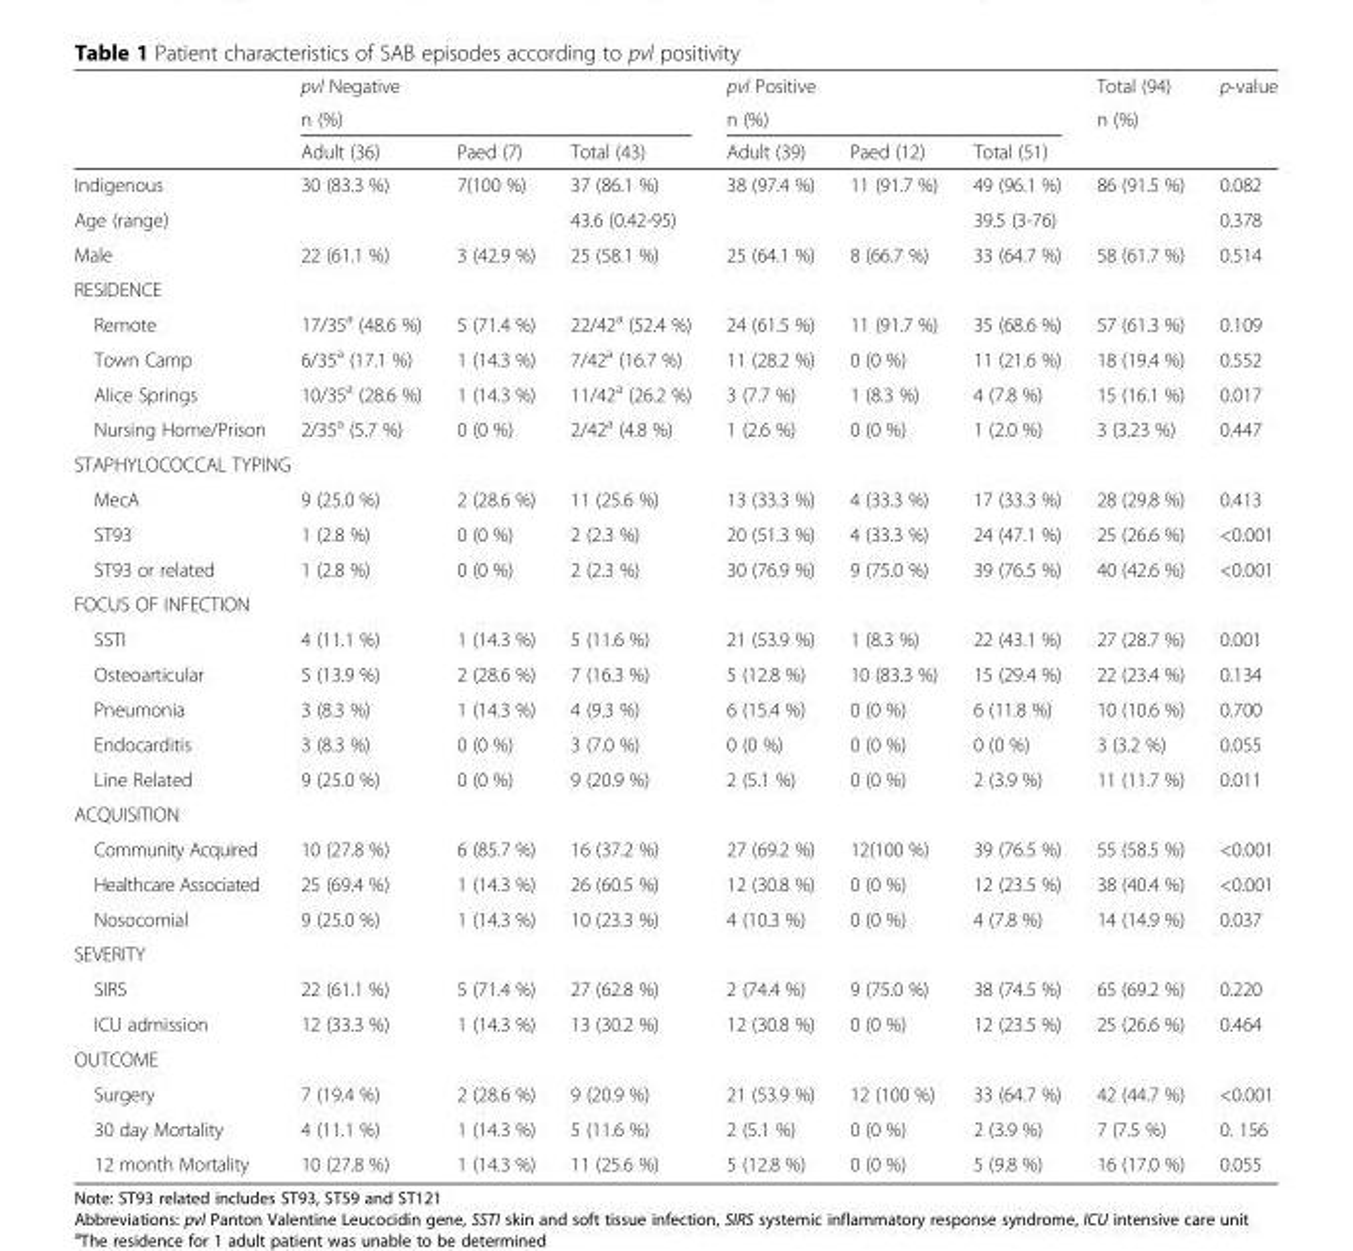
<table><thead><tr><td rowspan="3"></td><td rowspan="2" colspan="3">pvl Negative n (%)</td><td rowspan="2" colspan="3">pvl Positive n (%)</td><td rowspan="3">Total (94) n (%)</td><td rowspan="3">p-value</td></tr><tr></tr><tr><td>Adult (36)</td><td>Paed (7)</td><td>Total (43)</td><td>Adult (39)</td><td>Paed (12)</td><td>Total (51)</td></tr></thead><tbody><tr><td>Indigenous</td><td>30 (83.3 %)</td><td>7(100 %)</td><td>37 (86.1 %)</td><td>38 (97.4 %)</td><td>11 (91.7 %)</td><td>49 (96.1 %)</td><td>86 (91.5 %)</td><td>0.082</td></tr><tr><td>Age (range)</td><td></td><td></td><td>43.6 (0.42-95)</td><td></td><td></td><td>39.5 (3-76)</td><td></td><td>0.378</td></tr><tr><td>Male</td><td>22 (61.1 %)</td><td>3 (42.9 %)</td><td>25 (58.1 %)</td><td>25 (64.1 %)</td><td>8 (66.7 %)</td><td>33 (64.7 %)</td><td>58 (61.7 %)</td><td>0.514</td></tr><tr><td colspan="9">RESIDENCE</td></tr><tr><td>Remote</td><td>17/35<sup>a</sup> (48.6 %)</td><td>5 (71.4 %)</td><td>22/42<sup>a</sup> (52.4 %)</td><td>24 (61.5 %)</td><td>11 (91.7 %)</td><td>35 (68.6 %)</td><td>57 (61.3 %)</td><td>0.109</td></tr><tr><td>Town Camp</td><td>6/35<sup>a</sup> (17.1 %)</td><td>1 (14.3 %)</td><td>7/42<sup>a</sup> (16.7 %)</td><td>11 (28.2 %)</td><td>0 (0 %)</td><td>11 (21.6 %)</td><td>18 (19.4 %)</td><td>0.552</td></tr><tr><td>Alice Springs</td><td>10/35<sup>a</sup> (28.6 %)</td><td>1 (14.3 %)</td><td>11/42<sup>a</sup> (26.2 %)</td><td>3 (7.7 %)</td><td>1 (8.3 %)</td><td>4 (7.8 %)</td><td>15 (16.1 %)</td><td>0.017</td></tr><tr><td>Nursing Home/Prison</td><td>2/35<sup>a</sup> (5.7 %)</td><td>0 (0 %)</td><td>2/42<sup>a</sup> (4.8 %)</td><td>1 (2.6 %)</td><td>0 (0 %)</td><td>1 (2.0 %)</td><td>3 (3.23 %)</td><td>0.447</td></tr><tr><td colspan="9">STAPHYLOCOCCAL TYPING</td></tr><tr><td>MecA</td><td>9 (25.0 %)</td><td>2 (28.6 %)</td><td>11 (25.6 %)</td><td>13 (33.3 %)</td><td>4 (33.3 %)</td><td>17 (33.3 %)</td><td>28 (29.8 %)</td><td>0.413</td></tr><tr><td>ST93</td><td>1 (2.8 %)</td><td>0 (0 %)</td><td>2 (2.3 %)</td><td>20 (51.3 %)</td><td>4 (33.3 %)</td><td>24 (47.1 %)</td><td>25 (26.6 %)</td><td>&lt;0.001</td></tr><tr><td>ST93 or related</td><td>1 (2.8 %)</td><td>0 (0 %)</td><td>2 (2.3 %)</td><td>30 (76.9 %)</td><td>9 (75.0 %)</td><td>39 (76.5 %)</td><td>40 (42.6 %)</td><td>&lt;0.001</td></tr><tr><td colspan="9">FOCUS OF INFECTION</td></tr><tr><td>SSTI</td><td>4 (11.1 %)</td><td>1 (14.3 %)</td><td>5 (11.6 %)</td><td>21 (53.9 %)</td><td>1 (8.3 %)</td><td>22 (43.1 %)</td><td>27 (28.7 %)</td><td>0.001</td></tr><tr><td>Osteoarticular</td><td>5 (13.9 %)</td><td>2 (28.6 %)</td><td>7 (16.3 %)</td><td>5 (12.8 %)</td><td>10 (83.3 %)</td><td>15 (29.4 %)</td><td>22 (23.4 %)</td><td>0.134</td></tr><tr><td>Pneumonia</td><td>3 (8.3 %)</td><td>1 (14.3 %)</td><td>4 (9.3 %)</td><td>6 (15.4 %)</td><td>0 (0 %)</td><td>6 (11.8 %)</td><td>10 (10.6 %)</td><td>0.700</td></tr><tr><td>Endocarditis</td><td>3 (8.3 %)</td><td>0 (0 %)</td><td>3 (7.0 %)</td><td>0 (0 %)</td><td>0 (0 %)</td><td>0 (0 %)</td><td>3 (3.2 %)</td><td>0.055</td></tr><tr><td>Line Related</td><td>9 (25.0 %)</td><td>0 (0 %)</td><td>9 (20.9 %)</td><td>2 (5.1 %)</td><td>0 (0 %)</td><td>2 (3.9 %)</td><td>11 (11.7 %)</td><td>0.011</td></tr><tr><td colspan="9">ACQUISITION</td></tr><tr><td>Community Acquired</td><td>10 (27.8 %)</td><td>6 (85.7 %)</td><td>16 (37.2 %)</td><td>27 (69.2 %)</td><td>12(100 %)</td><td>39 (76.5 %)</td><td>55 (58.5 %)</td><td>&lt;0.001</td></tr><tr><td>Healthcare Associated</td><td>25 (69.4 %)</td><td>1 (14.3 %)</td><td>26 (60.5 %)</td><td>12 (30.8 %)</td><td>0 (0 %)</td><td>12 (23.5 %)</td><td>38 (40.4 %)</td><td>&lt;0.001</td></tr><tr><td>Nosocomial</td><td>9 (25.0 %)</td><td>1 (14.3 %)</td><td>10 (23.3 %)</td><td>4 (10.3 %)</td><td>0 (0 %)</td><td>4 (7.8 %)</td><td>14 (14.9 %)</td><td>0.037</td></tr><tr><td colspan="9">SEVERITY</td></tr><tr><td>SIRS</td><td>22 (61.1 %)</td><td>5 (71.4 %)</td><td>27 (62.8 %)</td><td>2 (74.4 %)</td><td>9 (75.0 %)</td><td>38 (74.5 %)</td><td>65 (69.2 %)</td><td>0.220</td></tr><tr><td>ICU admission</td><td>12 (33.3 %)</td><td>1 (14.3 %)</td><td>13 (30.2 %)</td><td>12 (30.8 %)</td><td>0 (0 %)</td><td>12 (23.5 %)</td><td>25 (26.6 %)</td><td>0.464</td></tr><tr><td colspan="9">OUTCOME</td></tr><tr><td>Surgery</td><td>7 (19.4 %)</td><td>2 (28.6 %)</td><td>9 (20.9 %)</td><td>21 (53.9 %)</td><td>12 (100 %)</td><td>33 (64.7 %)</td><td>42 (44.7 %)</td><td>&lt;0.001</td></tr><tr><td>30 day Mortality</td><td>4 (11.1 %)</td><td>1 (14.3 %)</td><td>5 (11.6 %)</td><td>2 (5.1 %)</td><td>0 (0 %)</td><td>2 (3.9 %)</td><td>7 (7.5 %)</td><td>0. 156</td></tr><tr><td>12 month Mortality</td><td>10 (27.8 %)</td><td>1 (14.3 %)</td><td>11 (25.6 %)</td><td>5 (12.8 %)</td><td>0 (0 %)</td><td>5 (9.8 %)</td><td>16 (17.0 %)</td><td>0.055</td></tr></tbody></table>